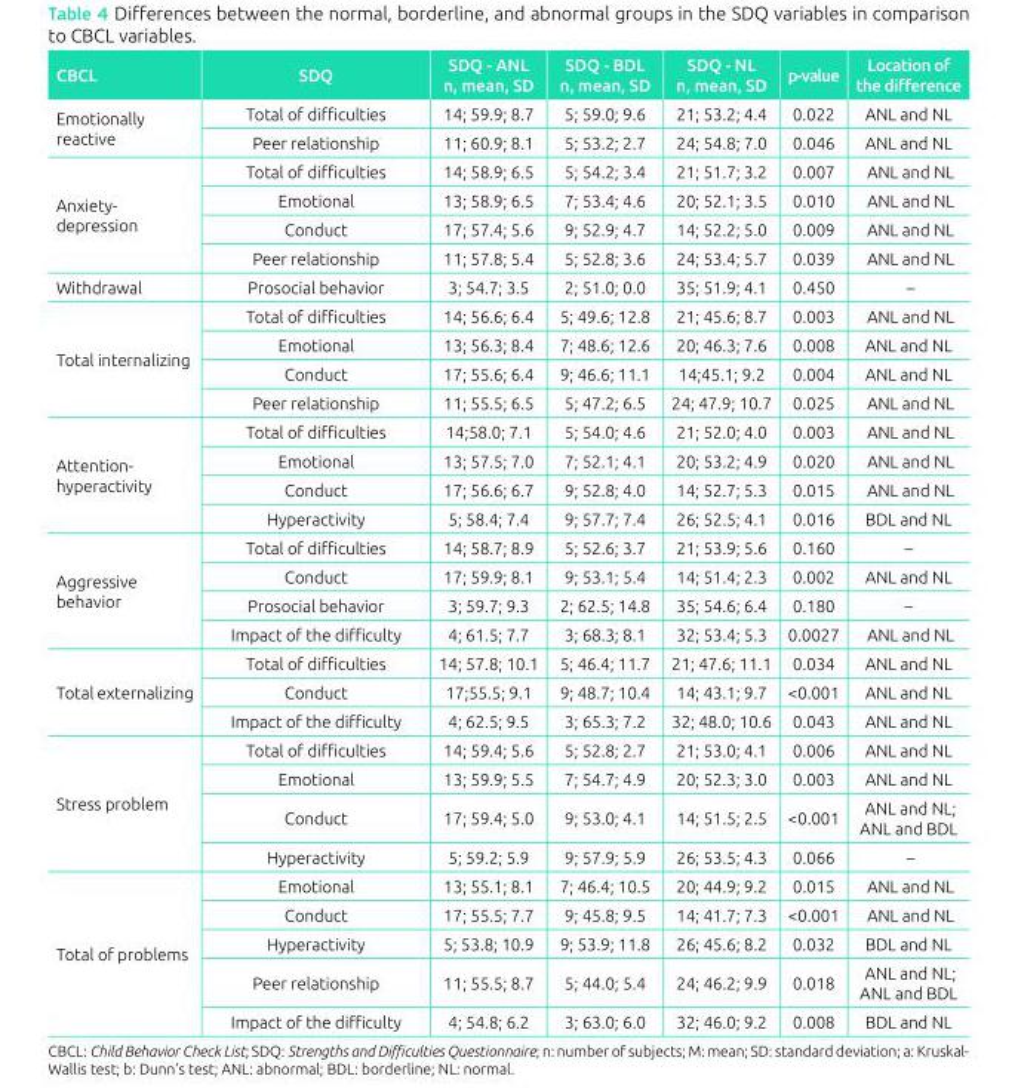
<table><thead><tr><td>CBCL</td><td>SDQ</td><td>SDQ - ANL n, mean, SD</td><td>SDQ - BDL n, mean, SD</td><td>SDQ - NL n, mean, SD</td><td>p-value</td><td>Location of the difference</td></tr></thead><tbody><tr><td rowspan="2">Emotionally reactive</td><td>Total of difficulties</td><td>14; 59.9; 8.7</td><td>5; 59.0; 9.6</td><td>21; 53.2; 4.4</td><td>0.022</td><td>ANL and NL</td></tr><tr><td>Peer relationship</td><td>11; 60.9; 8.1</td><td>5; 53.2; 2.7</td><td>24; 54.8; 7.0</td><td>0.046</td><td>ANL and NL</td></tr><tr><td rowspan="4">Anxiety- depression</td><td>Total of difficulties</td><td>14; 58.9; 6.5</td><td>5; 54.2; 3.4</td><td>21; 51.7; 3.2</td><td>0.007</td><td>ANL and NL</td></tr><tr><td>Emotional</td><td>13; 58.9; 6.5</td><td>7; 53.4; 4.6</td><td>20; 52.1; 3.5</td><td>0.010</td><td>ANL and NL</td></tr><tr><td>Conduct</td><td>17; 57.4; 5.6</td><td>9; 52.9; 4.7</td><td>14; 52.2; 5.0</td><td>0.009</td><td>ANL and NL</td></tr><tr><td>Peer relationship</td><td>11; 57.8; 5.4</td><td>5; 52.8; 3.6</td><td>24; 53.4; 5.7</td><td>0.039</td><td>ANL and NL</td></tr><tr><td>Withdrawal</td><td>Prosocial behavior</td><td>3; 54.7; 3.5</td><td>2; 51.0; 0.0</td><td>35; 51.9; 4.1</td><td>0.450</td><td>–</td></tr><tr><td rowspan="4">Total internalizing</td><td>Total of difficulties</td><td>14; 56.6; 6.4</td><td>5; 49.6; 12.8</td><td>21; 45.6; 8.7</td><td>0.003</td><td>ANL and NL</td></tr><tr><td>Emotional</td><td>13; 56.3; 8.4</td><td>7; 48.6; 12.6</td><td>20; 46.3; 7.6</td><td>0.008</td><td>ANL and NL</td></tr><tr><td>Conduct</td><td>17; 55.6; 6.4</td><td>9; 46.6; 11.1</td><td>14;45.1; 9.2</td><td>0.004</td><td>ANL and NL</td></tr><tr><td>Peer relationship</td><td>11; 55.5; 6.5</td><td>5; 47.2; 6.5</td><td>24; 47.9; 10.7</td><td>0.025</td><td>ANL and NL</td></tr><tr><td rowspan="4">Attention- hyperactivity</td><td>Total of difficulties</td><td>14;58.0; 7.1</td><td>5; 54.0; 4.6</td><td>21; 52.0; 4.0</td><td>0.003</td><td>ANL and NL</td></tr><tr><td>Emotional</td><td>13; 57.5; 7.0</td><td>7; 52.1; 4.1</td><td>20; 53.2; 4.9</td><td>0.020</td><td>ANL and NL</td></tr><tr><td>Conduct</td><td>17; 56.6; 6.7</td><td>9; 52.8; 4.0</td><td>14; 52.7; 5.3</td><td>0.015</td><td>ANL and NL</td></tr><tr><td>Hyperactivity</td><td>5; 58.4; 7.4</td><td>9; 57.7; 7.4</td><td>26; 52.5; 4.1</td><td>0.016</td><td>BDL and NL</td></tr><tr><td rowspan="4">Aggressive behavior</td><td>Total of difficulties</td><td>14; 58.7; 8.9</td><td>5; 52.6; 3.7</td><td>21; 53.9; 5.6</td><td>0.160</td><td>–</td></tr><tr><td>Conduct</td><td>17; 59.9; 8.1</td><td>9; 53.1; 5.4</td><td>14; 51.4; 2.3</td><td>0.002</td><td>ANL and NL</td></tr><tr><td>Prosocial behavior</td><td>3; 59.7; 9.3</td><td>2; 62.5; 14.8</td><td>35; 54.6; 6.4</td><td>0.180</td><td>–</td></tr><tr><td>Impact of the difficulty</td><td>4; 61.5; 7.7</td><td>3; 68.3; 8.1</td><td>32; 53.4; 5.3</td><td>0.0027</td><td>ANL and NL</td></tr><tr><td rowspan="3">Total externalizing</td><td>Total of difficulties</td><td>14; 57.8; 10.1</td><td>5; 46.4; 11.7</td><td>21; 47.6; 11.1</td><td>0.034</td><td>ANL and NL</td></tr><tr><td>Conduct</td><td>17;55.5; 9.1</td><td>9; 48.7; 10.4</td><td>14; 43.1; 9.7</td><td>&lt;0.001</td><td>ANL and NL</td></tr><tr><td>Impact of the difficulty</td><td>4; 62.5; 9.5</td><td>3; 65.3; 7.2</td><td>32; 48.0; 10.6</td><td>0.043</td><td>ANL and NL</td></tr><tr><td rowspan="4">Stress problem</td><td>Total of difficulties</td><td>14; 59.4; 5.6</td><td>5; 52.8; 2.7</td><td>21; 53.0; 4.1</td><td>0.006</td><td>ANL and NL</td></tr><tr><td>Emotional</td><td>13; 59.9; 5.5</td><td>7; 54.7; 4.9</td><td>20; 52.3; 3.0</td><td>0.003</td><td>ANL and NL</td></tr><tr><td>Conduct</td><td>17; 59.4; 5.0</td><td>9; 53.0; 4.1</td><td>14; 51.5; 2.5</td><td>&lt;0.001</td><td>ANL and NL; ANL and BDL</td></tr><tr><td>Hyperactivity</td><td>5; 59.2; 5.9</td><td>9; 57.9; 5.9</td><td>26; 53.5; 4.3</td><td>0.066</td><td>–</td></tr><tr><td rowspan="5">Total of problems</td><td>Emotional</td><td>13; 55.1; 8.1</td><td>7; 46.4; 10.5</td><td>20; 44.9; 9.2</td><td>0.015</td><td>ANL and NL</td></tr><tr><td>Conduct</td><td>17; 55.5; 7.7</td><td>9; 45.8; 9.5</td><td>14; 41.7; 7.3</td><td>&lt;0.001</td><td>ANL and NL</td></tr><tr><td>Hyperactivity</td><td>5; 53.8; 10.9</td><td>9; 53.9; 11.8</td><td>26; 45.6; 8.2</td><td>0.032</td><td>BDL and NL</td></tr><tr><td>Peer relationship</td><td>11; 55.5; 8.7</td><td>5; 44.0; 5.4</td><td>24; 46.2; 9.9</td><td>0.018</td><td>ANL and NL; ANL and BDL</td></tr><tr><td>Impact of the difficulty</td><td>4; 54.8; 6.2</td><td>3; 63.0; 6.0</td><td>32; 46.0; 9.2</td><td>0.008</td><td>BDL and NL</td></tr></tbody></table>